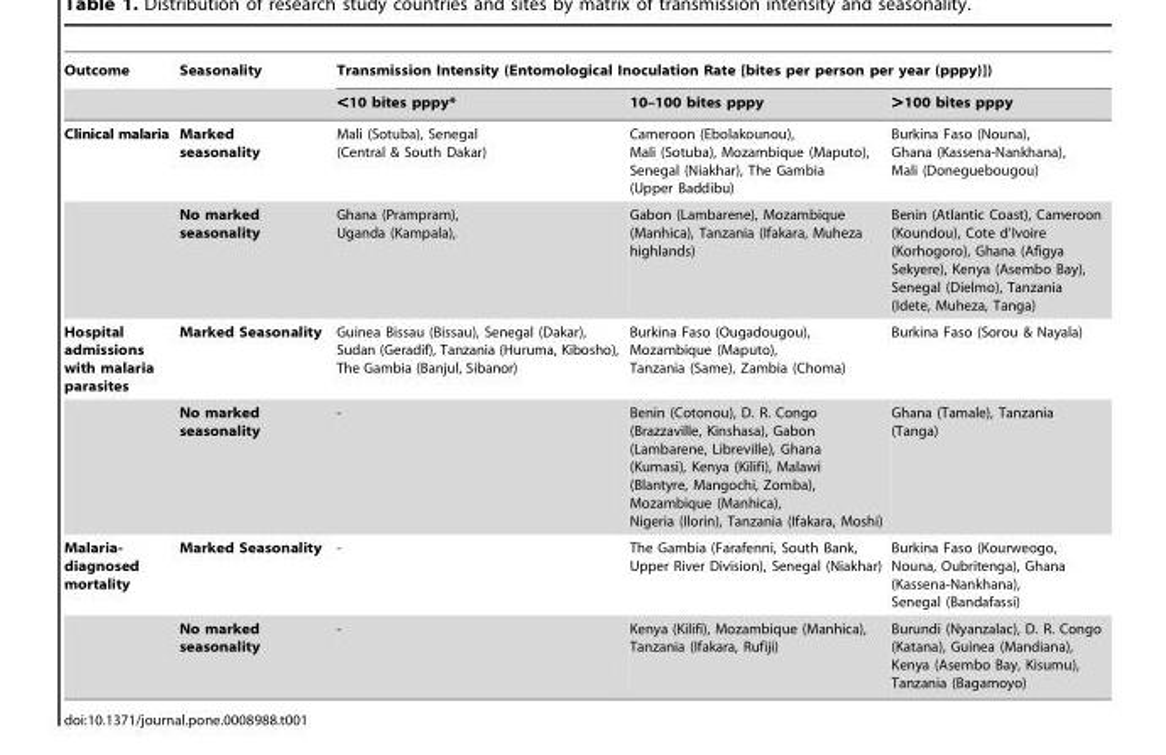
<table><thead><tr><td rowspan="2">Outcome</td><td rowspan="2">Seasonality</td><td colspan="3">Transmission Intensity (Entomological Inoculation Rate [bites per person per year (pppy)])</td></tr><tr><td>&lt;10 bites pppy*</td><td>10–100 bites pppy</td><td>&gt;100 bites pppy</td></tr></thead><tbody><tr><td rowspan="2">Clinical malaria</td><td>Marked seasonality</td><td>Mali (Sotuba), Senegal (Central &amp; South Dakar)</td><td>Cameroon (Ebolakounou), Mali (Sotuba), Mozambique (Maputo), Senegal (Niakhar), The Gambia (Upper Baddibu)</td><td>Burkina Faso (Nouna), Ghana (Kassena-Nankhana), Mali (Doneguebougou)</td></tr><tr><td>No marked seasonality</td><td>Ghana (Prampram), Uganda (Kampala),</td><td>Gabon (Lambarene), Mozambique (Manhica), Tanzania (Ifakara, Muheza highlands)</td><td>Benin (Atlantic Coast), Cameroon (Koundou), Cote d’Ivoire (Korhogoro), Ghana (Afigya Sekyere), Kenya (Asembo Bay), Senegal (Dielmo), Tanzania (Idete, Muheza, Tanga)</td></tr><tr><td rowspan="2">Hospital admissions with malaria parasites</td><td>Marked Seasonality</td><td>Guinea Bissau (Bissau), Senegal (Dakar), Sudan (Geradif), Tanzania (Huruma, Kibosho), The Gambia (Banjul, Sibanor)</td><td>Burkina Faso (Ougadougou), Mozambique (Maputo), Tanzania (Same), Zambia (Choma)</td><td>Burkina Faso (Sorou &amp; Nayala)</td></tr><tr><td>No marked seasonality</td><td>-</td><td>Benin (Cotonou), D. R. Congo (Brazzaville, Kinshasa), Gabon (Lambarene, Libreville), Ghana (Kumasi), Kenya (Kilifi), Malawi (Blantyre, Mangochi, Zomba), Mozambique (Manhica), Nigeria (Ilorin), Tanzania (Ifakara, Moshi)</td><td>Ghana (Tamale), Tanzania (Tanga)</td></tr><tr><td rowspan="2">Malaria- diagnosed mortality</td><td>Marked Seasonality</td><td>-</td><td>The Gambia (Farafenni, South Bank, Upper River Division), Senegal (Niakhar)</td><td>Burkina Faso (Kourweogo, Nouna, Oubritenga), Ghana (Kassena-Nankhana), Senegal (Bandafassi)</td></tr><tr><td>No marked seasonality</td><td>-</td><td>Kenya (Kilifi), Mozambique (Manhica), Tanzania (Ifakara, Rufiji)</td><td>Burundi (Nyanzalac), D. R. Congo (Katana), Guinea (Mandiana), Kenya (Asembo Bay, Kisumu), Tanzania (Bagamoyo)</td></tr></tbody></table>